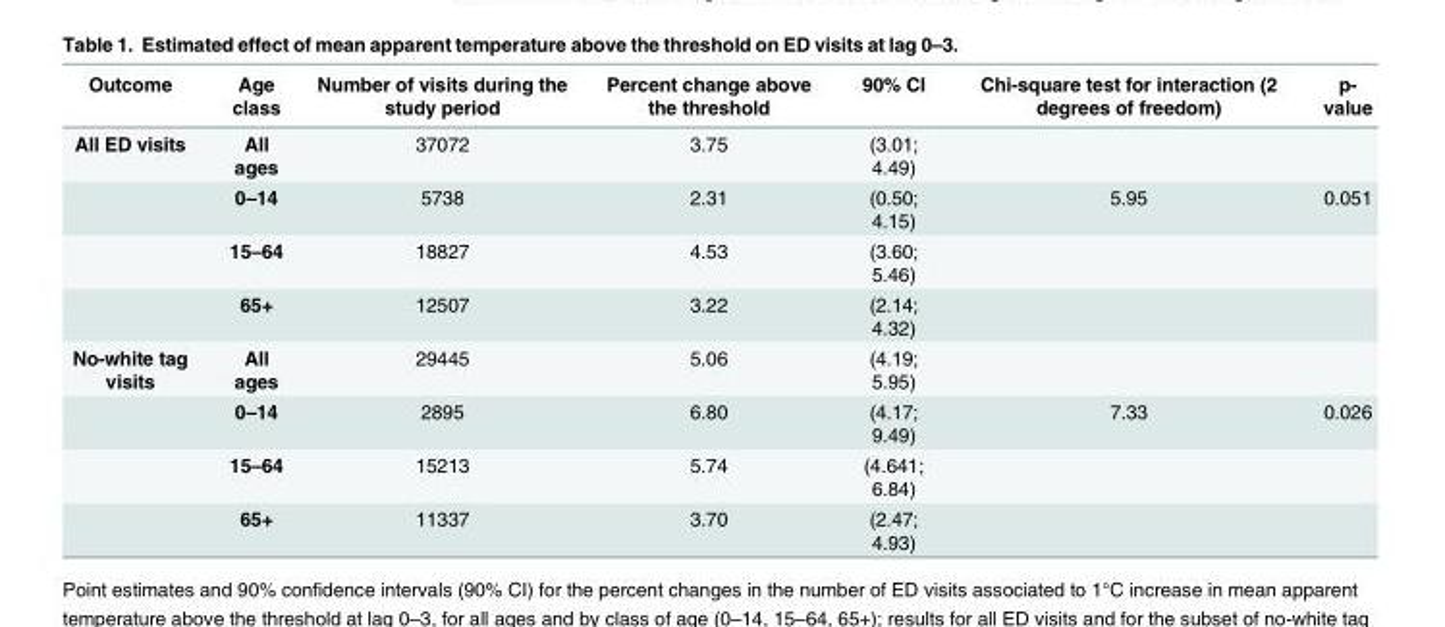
<table><thead><tr><td>Outcome</td><td>Age class</td><td>Number of visits during the study period</td><td>Percent change above the threshold</td><td>90% CI</td><td>Chi-square test for interaction (2 degrees of freedom)</td><td>p- value</td></tr></thead><tbody><tr><td rowspan="4">All ED visits</td><td>All ages</td><td>37072</td><td>3.75</td><td>(3.01; 4.49)</td><td colspan="2"></td></tr><tr><td>0–14</td><td>5738</td><td>2.31</td><td>(0.50; 4.15)</td><td>5.95</td><td>0.051</td></tr><tr><td>15–64</td><td>18827</td><td>4.53</td><td>(3.60; 5.46)</td><td></td><td></td></tr><tr><td>65+</td><td>12507</td><td>3.22</td><td>(2.14; 4.32)</td><td></td><td></td></tr><tr><td rowspan="4">No-white tag visits</td><td>All ages</td><td>29445</td><td>5.06</td><td>(4.19; 5.95)</td><td colspan="2"></td></tr><tr><td>0–14</td><td>2895</td><td>6.80</td><td>(4.17; 9.49)</td><td>7.33</td><td>0.026</td></tr><tr><td>15–64</td><td>15213</td><td>5.74</td><td>(4.641; 6.84)</td><td></td><td></td></tr><tr><td>65+</td><td>11337</td><td>3.70</td><td>(2.47; 4.93)</td><td></td><td></td></tr></tbody></table>